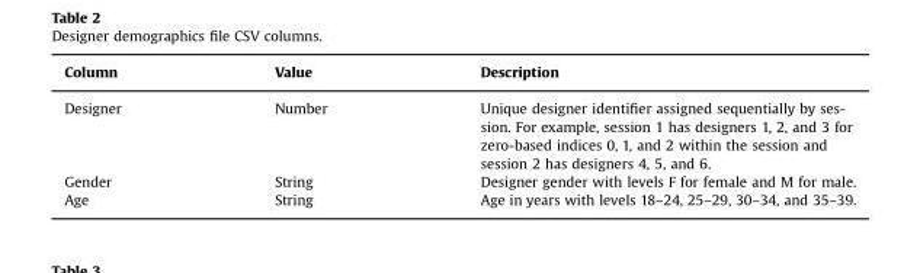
<table><thead><tr><td>Column</td><td>Value</td><td>Description</td></tr></thead><tbody><tr><td>Designer</td><td>Number</td><td>Unique designer identifier assigned sequentially by ses- sion. For example, session 1 has designers 1, 2, and 3 for zero-based indices 0, 1, and 2 within the session and session 2 has designers 4, 5, and 6.</td></tr><tr><td>Gender</td><td>String</td><td>Designer gender with levels F for female and M for male.</td></tr><tr><td>Age</td><td>String</td><td>Age in years with levels 18–24, 25–29, 30–34, and 35–39.</td></tr></tbody></table>